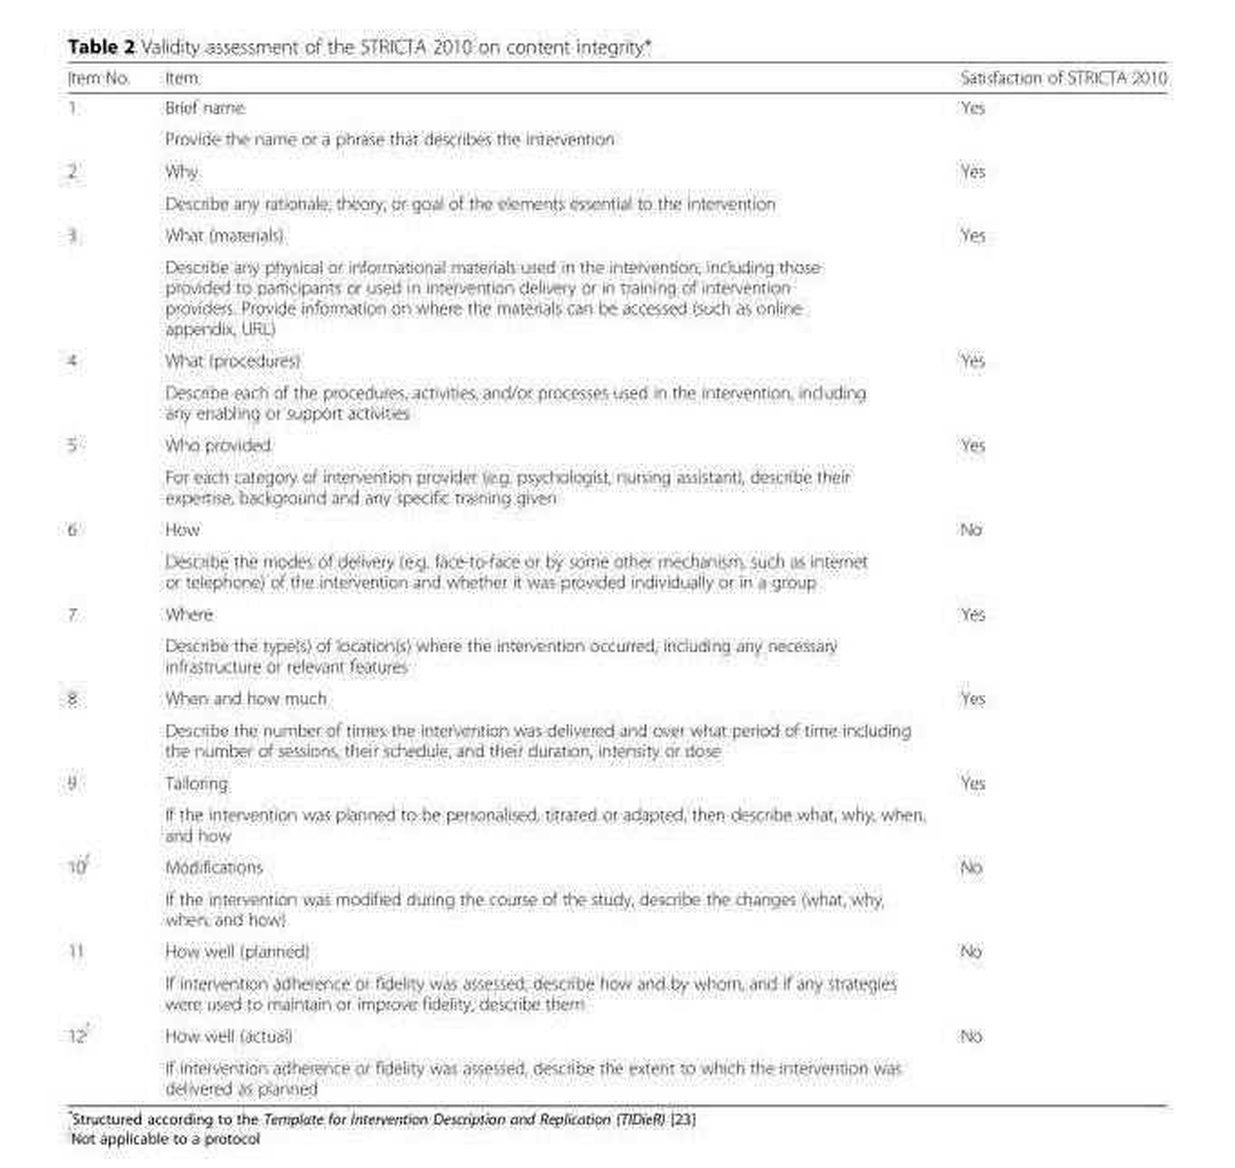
<table><thead><tr><td>Item No.</td><td>Item</td><td>Satisfaction of STRICTA 2010</td></tr></thead><tbody><tr><td rowspan="2">1</td><td>Brief name</td><td rowspan="2">Yes</td></tr><tr><td>Provide the name or a phrase that describes the intervention</td></tr><tr><td rowspan="2">2</td><td>Why</td><td rowspan="2">Yes</td></tr><tr><td>Describe any rationale, theory, or goal of the elements essential to the intervention</td></tr><tr><td rowspan="2">3</td><td>What (materials)</td><td rowspan="2">Yes</td></tr><tr><td>Describe any physical or informational materials used in the intervention, including those provided to participants or used in intervention delivery or in training of intervention providers. Provide information on where the materials can be accessed (such as online appendix, URL)</td></tr><tr><td rowspan="2">4</td><td>What (procedures)</td><td rowspan="2">Yes</td></tr><tr><td>Describe each of the procedures, activities, and/or processes used in the intervention, including any enabling or support activities</td></tr><tr><td rowspan="2">5</td><td>Who provided</td><td rowspan="2">Yes</td></tr><tr><td>For each category of intervention provider (e.g. psychologist, nursing assistant), describe their expertise, background and any specific training given</td></tr><tr><td rowspan="2">6</td><td>How</td><td rowspan="2">No</td></tr><tr><td>Describe the modes of delivery (e.g. face-to-face or by some other mechanism, such as internet or telephone) of the intervention and whether it was provided individually or in a group</td></tr><tr><td rowspan="2">7</td><td>Where</td><td rowspan="2">Yes</td></tr><tr><td>Describe the type(s) of location(s) where the intervention occurred, including any necessary infrastructure or relevant features</td></tr><tr><td rowspan="2">8</td><td>When and how much</td><td rowspan="2">Yes</td></tr><tr><td>Describe the number of times the intervention was delivered and over what period of time including the number of sessions, their schedule, and their duration, intensity or dose</td></tr><tr><td rowspan="2">9</td><td>Tailoring</td><td rowspan="2">Yes</td></tr><tr><td>If the intervention was planned to be personalised, titrated or adapted, then describe what, why, when, and how</td></tr><tr><td rowspan="2">10<sup>∮</sup></td><td>Modifications</td><td rowspan="2">No</td></tr><tr><td>If the intervention was modified during the course of the study, describe the changes (what, why, when, and how)</td></tr><tr><td rowspan="2">11</td><td>How well (planned)</td><td rowspan="2">No</td></tr><tr><td>If intervention adherence or fidelity was assessed, describe how and by whom, and if any strategies were used to maintain or improve fidelity, describe them</td></tr><tr><td rowspan="2">12<sup>∮</sup></td><td>How well (actual)</td><td rowspan="2">No</td></tr><tr><td>If intervention adherence or fidelity was assessed, describe the extent to which the intervention was delivered as planned</td></tr></tbody></table>